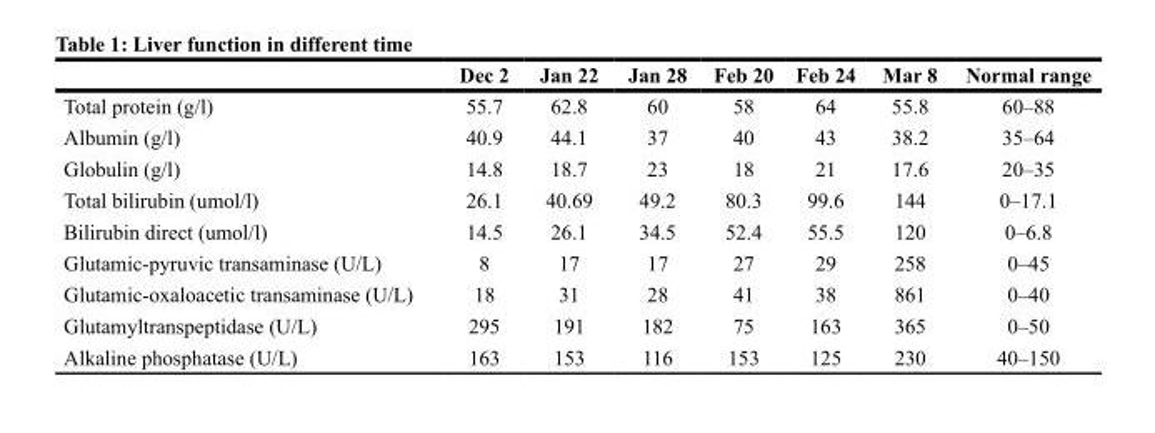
<table><thead><tr><td></td><td>Dec 2</td><td>Jan 22</td><td>Jan 28</td><td>Feb 20</td><td>Feb 24</td><td>Mar 8</td><td>Normal range</td></tr></thead><tbody><tr><td>Total protein (g/l)</td><td>55.7</td><td>62.8</td><td>60</td><td>58</td><td>64</td><td>55.8</td><td>60–88</td></tr><tr><td>Albumin (g/l)</td><td>40.9</td><td>44.1</td><td>37</td><td>40</td><td>43</td><td>38.2</td><td>35–64</td></tr><tr><td>Globulin (g/l)</td><td>14.8</td><td>18.7</td><td>23</td><td>18</td><td>21</td><td>17.6</td><td>20–35</td></tr><tr><td>Total bilirubin (umol/l)</td><td>26.1</td><td>40.69</td><td>49.2</td><td>80.3</td><td>99.6</td><td>144</td><td>0–17.1</td></tr><tr><td>Bilirubin direct (umol/l)</td><td>14.5</td><td>26.1</td><td>34.5</td><td>52.4</td><td>55.5</td><td>120</td><td>0–6.8</td></tr><tr><td>Glutamic-pyruvic transaminase (U/L)</td><td>8</td><td>17</td><td>17</td><td>27</td><td>29</td><td>258</td><td>0–45</td></tr><tr><td>Glutamic-oxaloacetic transaminase (U/L)</td><td>18</td><td>31</td><td>28</td><td>41</td><td>38</td><td>861</td><td>0–40</td></tr><tr><td>Glutamyltranspeptidase (U/L)</td><td>295</td><td>191</td><td>182</td><td>75</td><td>163</td><td>365</td><td>0–50</td></tr><tr><td>Alkaline phosphatase (U/L)</td><td>163</td><td>153</td><td>116</td><td>153</td><td>125</td><td>230</td><td>40–150</td></tr></tbody></table>